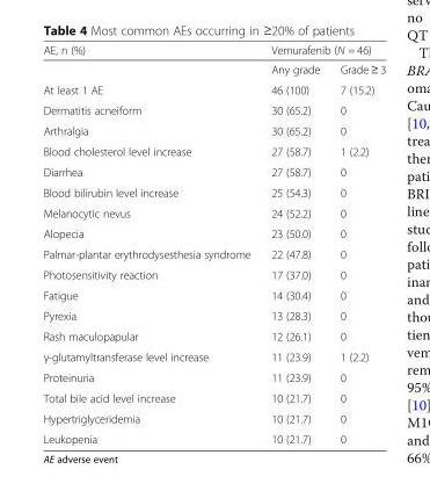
<table><thead><tr><td rowspan="2">AE, n (%)</td><td colspan="2">Vemurafenib (N = 46)</td></tr><tr><td>Any grade</td><td>Grade ≥ 3</td></tr></thead><tbody><tr><td>At least 1 AE</td><td>46 (100)</td><td>7 (15.2)</td></tr><tr><td>Dermatitis acneiform</td><td>30 (65.2)</td><td>0</td></tr><tr><td>Arthralgia</td><td>30 (65.2)</td><td>0</td></tr><tr><td>Blood cholesterol level increase</td><td>27 (58.7)</td><td>1 (2.2)</td></tr><tr><td>Diarrhea</td><td>27 (58.7)</td><td>0</td></tr><tr><td>Blood bilirubin level increase</td><td>25 (54.3)</td><td>0</td></tr><tr><td>Melanocytic nevus</td><td>24 (52.2)</td><td>0</td></tr><tr><td>Alopecia</td><td>23 (50.0)</td><td>0</td></tr><tr><td>Palmar-plantar erythrodysesthesia syndrome</td><td>22 (47.8)</td><td>0</td></tr><tr><td>Photosensitivity reaction</td><td>17 (37.0)</td><td>0</td></tr><tr><td>Fatigue</td><td>14 (30.4)</td><td>0</td></tr><tr><td>Pyrexia</td><td>13 (28.3)</td><td>0</td></tr><tr><td>Rash maculopapular</td><td>12 (26.1)</td><td>0</td></tr><tr><td>γ-glutamyltransferase level increase</td><td>11 (23.9)</td><td>1 (2.2)</td></tr><tr><td>Proteinuria</td><td>11 (23.9)</td><td>0</td></tr><tr><td>Total bile acid level increase</td><td>10 (21.7)</td><td>0</td></tr><tr><td>Hypertriglyceridemia</td><td>10 (21.7)</td><td>0</td></tr><tr><td>Leukopenia</td><td>10 (21.7)</td><td>0</td></tr></tbody></table>